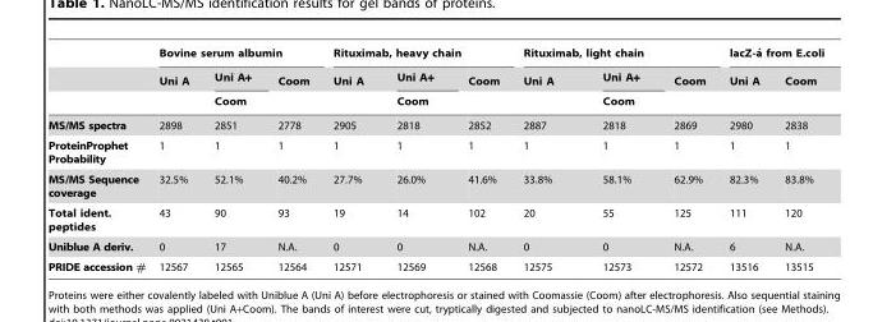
<table><thead><tr><td rowspan="3"></td><td colspan="3">Bovine serum albumin</td><td colspan="3">Rituximab, heavy chain</td><td colspan="3">Rituximab, light chain</td><td colspan="2">lacZ-a´ from E.coli</td></tr><tr><td rowspan="2">Uni A</td><td rowspan="2">Uni A+ Coom</td><td rowspan="2">Coom</td><td rowspan="2">Uni A</td><td rowspan="2">Uni A+ Coom</td><td rowspan="2">Coom</td><td rowspan="2">Uni A</td><td rowspan="2">Uni A+ Coom</td><td rowspan="2">Coom</td><td rowspan="2">Uni A</td><td rowspan="2">Coom</td></tr><tr></tr></thead><tbody><tr><td>MS/MS spectra</td><td>2898</td><td>2851</td><td>2778</td><td>2905</td><td>2818</td><td>2852</td><td>2887</td><td>2818</td><td>2869</td><td>2980</td><td>2838</td></tr><tr><td>ProteinProphet Probability</td><td>1</td><td>1</td><td>1</td><td>1</td><td>1</td><td>1</td><td>1</td><td>1</td><td>1</td><td>1</td><td>1</td></tr><tr><td>MS/MS Sequence coverage</td><td>32.5%</td><td>52.1%</td><td>40.2%</td><td>27.7%</td><td>26.0%</td><td>41.6%</td><td>33.8%</td><td>58.1%</td><td>62.9%</td><td>82.3%</td><td>83.8%</td></tr><tr><td>Total ident. peptides</td><td>43</td><td>90</td><td>93</td><td>19</td><td>14</td><td>102</td><td>20</td><td>55</td><td>125</td><td>111</td><td>120</td></tr><tr><td>Uniblue A deriv.</td><td>0</td><td>17</td><td>N.A.</td><td>0</td><td>0</td><td>N.A.</td><td>0</td><td>0</td><td>N.A.</td><td>6</td><td>N.A.</td></tr><tr><td>PRIDE accession #</td><td>12567</td><td>12565</td><td>12564</td><td>12571</td><td>12569</td><td>12568</td><td>12575</td><td>12573</td><td>12572</td><td>13516</td><td>13515</td></tr></tbody></table>